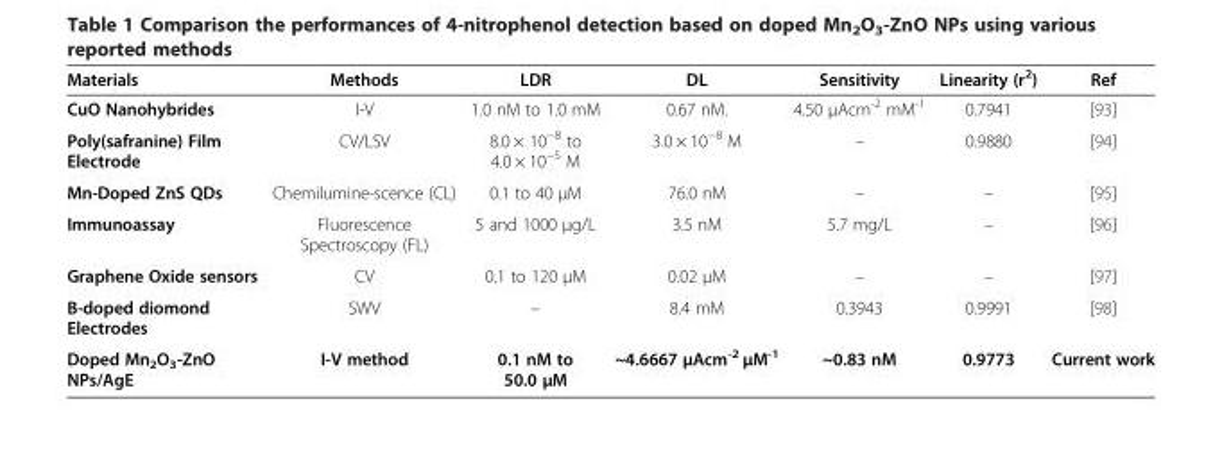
<table><thead><tr><td>Materials</td><td>Methods</td><td>LDR</td><td>DL</td><td>Sensitivity</td><td>Linearity (r<sup>2</sup>)</td><td>Ref</td></tr></thead><tbody><tr><td>CuO Nanohybrides</td><td>I-V</td><td>1.0 nM to 1.0 mM</td><td>0.67 nM.</td><td>4.50 μAcm<sup>-2</sup> mM<sup>-1</sup></td><td>0.7941</td><td>[93]</td></tr><tr><td>Poly(safranine) Film Electrode</td><td>CV/LSV</td><td>8.0 × 10<sup>−8</sup> to 4.0 × 10<sup>−5</sup> M</td><td>3.0 × 10<sup>−8</sup> M</td><td>–</td><td>0.9880</td><td>[94]</td></tr><tr><td>Mn-Doped ZnS QDs</td><td>Chemilumine-scence (CL)</td><td>0.1 to 40 μM</td><td>76.0 nM</td><td>–</td><td>–</td><td>[95]</td></tr><tr><td>Immunoassay</td><td>Fluorescence Spectroscopy (FL)</td><td>5 and 1000 μg/L</td><td>3.5 nM</td><td>5.7 mg/L</td><td>–</td><td>[96]</td></tr><tr><td>Graphene Oxide sensors</td><td>CV</td><td>0.1 to 120 μM</td><td>0.02 μM</td><td>–</td><td>–</td><td>[97]</td></tr><tr><td>B-doped diomond Electrodes</td><td>SWV</td><td>–</td><td>8.4 mM</td><td>0.3943</td><td>0.9991</td><td>[98]</td></tr><tr><td>Doped Mn<sub>2</sub>O<sub>3</sub>-ZnO NPs/AgE</td><td>I-V method</td><td>0.1 nM to 50.0 μM</td><td>~4.6667 μAcm<sup>-2</sup> μM<sup>-1</sup></td><td>~0.83 nM</td><td>0.9773</td><td>Current work</td></tr></tbody></table>